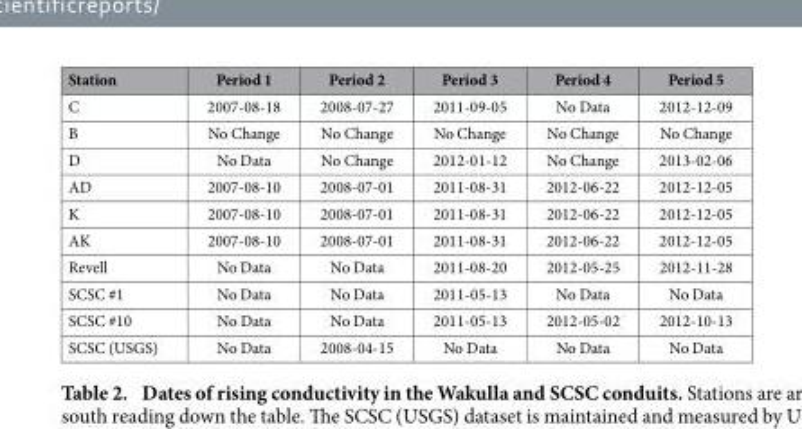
<table><thead><tr><td>Station</td><td>Period 1</td><td>Period 2</td><td>Period 3</td><td>Period 4</td><td>Period 5</td></tr></thead><tbody><tr><td>C</td><td>2007-08-18</td><td>2008-07-27</td><td>2011-09-05</td><td>No Data</td><td>2012-12-09</td></tr><tr><td>B</td><td>No Change</td><td>No Change</td><td>No Change</td><td>No Change</td><td>No Change</td></tr><tr><td>D</td><td>No Data</td><td>No Change</td><td>2012-01-12</td><td>No Change</td><td>2013-02-06</td></tr><tr><td>AD</td><td>2007-08-10</td><td>2008-07-01</td><td>2011-08-31</td><td>2012-06-22</td><td>2012-12-05</td></tr><tr><td>K</td><td>2007-08-10</td><td>2008-07-01</td><td>2011-08-31</td><td>2012-06-22</td><td>2012-12-05</td></tr><tr><td>AK</td><td>2007-08-10</td><td>2008-07-01</td><td>2011-08-31</td><td>2012-06-22</td><td>2012-12-05</td></tr><tr><td>Revell</td><td>No Data</td><td>No Data</td><td>2011-08-20</td><td>2012-05-25</td><td>2012-11-28</td></tr><tr><td>SCSC #1</td><td>No Data</td><td>No Data</td><td>2011-05-13</td><td>No Data</td><td>No Data</td></tr><tr><td>SCSC #10</td><td>No Data</td><td>No Data</td><td>2011-05-13</td><td>2012-05-02</td><td>2012-10-13</td></tr><tr><td>SCSC (USGS)</td><td>No Data</td><td>2008-04-15</td><td>No Data</td><td>No Data</td><td>No Data</td></tr></tbody></table>